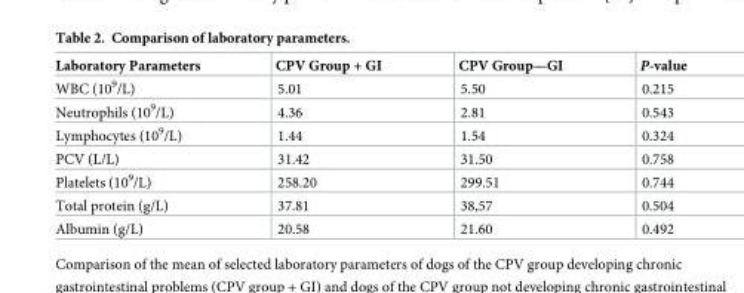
<table><thead><tr><td>Laboratory Parameters</td><td>CPV Group + GI</td><td>CPV Group—GI</td><td>P-value</td></tr></thead><tbody><tr><td>WBC (10<sup>9</sup>/L)</td><td>5.01</td><td>5.50</td><td>0.215</td></tr><tr><td>Neutrophils (10<sup>9</sup>/L)</td><td>4.36</td><td>2.81</td><td>0.543</td></tr><tr><td>Lymphocytes (10<sup>9</sup>/L)</td><td>1.44</td><td>1.54</td><td>0.324</td></tr><tr><td>PCV (L/L)</td><td>31.42</td><td>31.50</td><td>0.758</td></tr><tr><td>Platelets (10<sup>9</sup>/L)</td><td>258.20</td><td>299.51</td><td>0.744</td></tr><tr><td>Total protein (g/L)</td><td>37.81</td><td>38,57</td><td>0.504</td></tr><tr><td>Albumin (g/L)</td><td>20.58</td><td>21.60</td><td>0.492</td></tr></tbody></table>